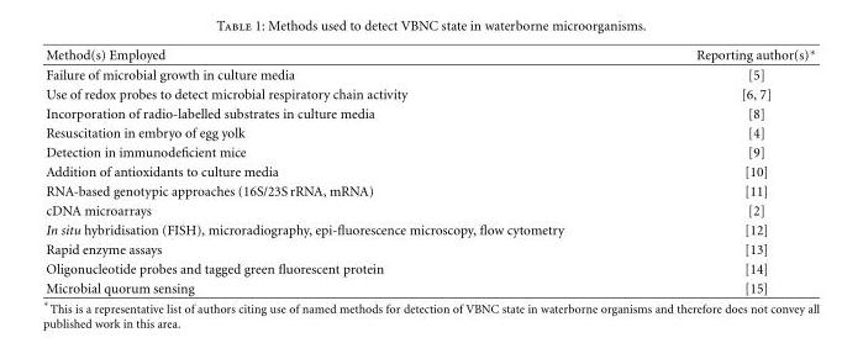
<table><thead><tr><td>Method(s) Employed</td><td>Reporting author(s)∗</td></tr></thead><tbody><tr><td>Failure of microbial growth in culture media</td><td>[5]</td></tr><tr><td>Use of redox probes to detect microbial respiratory chain activity</td><td>[6, 7]</td></tr><tr><td>Incorporation of radio-labelled substrates in culture media</td><td>[8]</td></tr><tr><td>Resuscitation in embryo of egg yolk</td><td>[4]</td></tr><tr><td>Detection in immunodeficient mice</td><td>[9]</td></tr><tr><td>Addition of antioxidants to culture media</td><td>[10]</td></tr><tr><td>RNA-based genotypic approaches (16S/23S rRNA, mRNA)</td><td>[11]</td></tr><tr><td>cDNA microarrays</td><td>[2]</td></tr><tr><td>In situ hybridisation (FISH), microradiography, epi-fluorescence microscopy, flow cytometry</td><td>[12]</td></tr><tr><td>Rapid enzyme assays</td><td>[13]</td></tr><tr><td>Oligonucleotide probes and tagged green fluorescent protein</td><td>[14]</td></tr><tr><td>Microbial quorum sensing</td><td>[15]</td></tr></tbody></table>